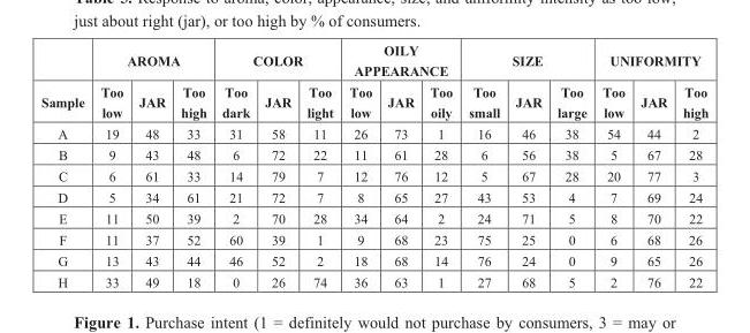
<table><thead><tr><td rowspan="2">Sample</td><td colspan="3">AROMA</td><td colspan="3">COLOR</td><td colspan="3">OILY APPEARANCE</td><td colspan="3">SIZE</td><td colspan="3">UNIFORMITY</td></tr><tr><td>Too low</td><td>JAR</td><td>Too high</td><td>Too dark</td><td>JAR</td><td>Too light</td><td>Too low</td><td>JAR</td><td>Too oily</td><td>Too small</td><td>JAR</td><td>Too large</td><td>Too low</td><td>JAR</td><td>Too high</td></tr></thead><tbody><tr><td>A</td><td>19</td><td>48</td><td>33</td><td>31</td><td>58</td><td>11</td><td>26</td><td>73</td><td>1</td><td>16</td><td>46</td><td>38</td><td>54</td><td>44</td><td>2</td></tr><tr><td>B</td><td>9</td><td>43</td><td>48</td><td>6</td><td>72</td><td>22</td><td>11</td><td>61</td><td>28</td><td>6</td><td>56</td><td>38</td><td>5</td><td>67</td><td>28</td></tr><tr><td>C</td><td>6</td><td>61</td><td>33</td><td>14</td><td>79</td><td>7</td><td>12</td><td>76</td><td>12</td><td>5</td><td>67</td><td>28</td><td>20</td><td>77</td><td>3</td></tr><tr><td>D</td><td>5</td><td>34</td><td>61</td><td>21</td><td>72</td><td>7</td><td>8</td><td>65</td><td>27</td><td>43</td><td>53</td><td>4</td><td>7</td><td>69</td><td>24</td></tr><tr><td>E</td><td>11</td><td>50</td><td>39</td><td>2</td><td>70</td><td>28</td><td>34</td><td>64</td><td>2</td><td>24</td><td>71</td><td>5</td><td>8</td><td>70</td><td>22</td></tr><tr><td>F</td><td>11</td><td>37</td><td>52</td><td>60</td><td>39</td><td>1</td><td>9</td><td>68</td><td>23</td><td>75</td><td>25</td><td>0</td><td>6</td><td>68</td><td>26</td></tr><tr><td>G</td><td>13</td><td>43</td><td>44</td><td>46</td><td>52</td><td>2</td><td>18</td><td>68</td><td>14</td><td>76</td><td>24</td><td>0</td><td>9</td><td>65</td><td>26</td></tr><tr><td>H</td><td>33</td><td>49</td><td>18</td><td>0</td><td>26</td><td>74</td><td>36</td><td>63</td><td>1</td><td>27</td><td>68</td><td>5</td><td>2</td><td>76</td><td>22</td></tr></tbody></table>